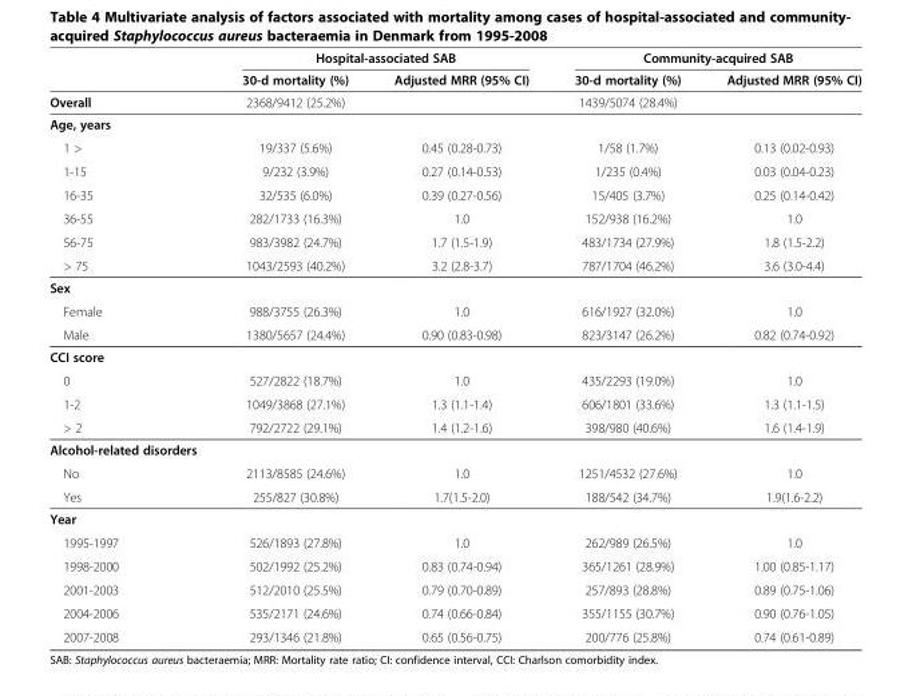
<table><thead><tr><td rowspan="2"></td><td colspan="2">Hospital-associated SAB</td><td colspan="2">Community-acquired SAB</td></tr><tr><td>30-d mortality (%)</td><td>Adjusted MRR (95% CI)</td><td>30-d mortality (%)</td><td>Adjusted MRR (95% CI)</td></tr></thead><tbody><tr><td>Overall</td><td>2368/9412 (25.2%)</td><td></td><td>1439/5074 (28.4%)</td><td></td></tr><tr><td colspan="5">Age, years</td></tr><tr><td>1 &gt;</td><td>19/337 (5.6%)</td><td>0.45 (0.28-0.73)</td><td>1/58 (1.7%)</td><td>0.13 (0.02-0.93)</td></tr><tr><td>1-15</td><td>9/232 (3.9%)</td><td>0.27 (0.14-0.53)</td><td>1/235 (0.4%)</td><td>0.03 (0.04-0.23)</td></tr><tr><td>16-35</td><td>32/535 (6.0%)</td><td>0.39 (0.27-0.56)</td><td>15/405 (3.7%)</td><td>0.25 (0.14-0.42)</td></tr><tr><td>36-55</td><td>282/1733 (16.3%)</td><td>1.0</td><td>152/938 (16.2%)</td><td>1.0</td></tr><tr><td>56-75</td><td>983/3982 (24.7%)</td><td>1.7 (1.5-1.9)</td><td>483/1734 (27.9%)</td><td>1.8 (1.5-2.2)</td></tr><tr><td>&gt; 75</td><td>1043/2593 (40.2%)</td><td>3.2 (2.8-3.7)</td><td>787/1704 (46.2%)</td><td>3.6 (3.0-4.4)</td></tr><tr><td colspan="5">Sex</td></tr><tr><td>Female</td><td>988/3755 (26.3%)</td><td>1.0</td><td>616/1927 (32.0%)</td><td>1.0</td></tr><tr><td>Male</td><td>1380/5657 (24.4%)</td><td>0.90 (0.83-0.98)</td><td>823/3147 (26.2%)</td><td>0.82 (0.74-0.92)</td></tr><tr><td colspan="5">CCI score</td></tr><tr><td>0</td><td>527/2822 (18.7%)</td><td>1.0</td><td>435/2293 (19.0%)</td><td>1.0</td></tr><tr><td>1-2</td><td>1049/3868 (27.1%)</td><td>1.3 (1.1-1.4)</td><td>606/1801 (33.6%)</td><td>1.3 (1.1-1.5)</td></tr><tr><td>&gt; 2</td><td>792/2722 (29.1%)</td><td>1.4 (1.2-1.6)</td><td>398/980 (40.6%)</td><td>1.6 (1.4-1.9)</td></tr><tr><td colspan="5">Alcohol-related disorders</td></tr><tr><td>No</td><td>2113/8585 (24.6%)</td><td>1.0</td><td>1251/4532 (27.6%)</td><td>1.0</td></tr><tr><td>Yes</td><td>255/827 (30.8%)</td><td>1.7(1.5-2.0)</td><td>188/542 (34.7%)</td><td>1.9(1.6-2.2)</td></tr><tr><td colspan="5">Year</td></tr><tr><td>1995-1997</td><td>526/1893 (27.8%)</td><td>1.0</td><td>262/989 (26.5%)</td><td>1.0</td></tr><tr><td>1998-2000</td><td>502/1992 (25.2%)</td><td>0.83 (0.74-0.94)</td><td>365/1261 (28.9%)</td><td>1.00 (0.85-1.17)</td></tr><tr><td>2001-2003</td><td>512/2010 (25.5%)</td><td>0.79 (0.70-0.89)</td><td>257/893 (28.8%)</td><td>0.89 (0.75-1.06)</td></tr><tr><td>2004-2006</td><td>535/2171 (24.6%)</td><td>0.74 (0.66-0.84)</td><td>355/1155 (30.7%)</td><td>0.90 (0.76-1.05)</td></tr><tr><td>2007-2008</td><td>293/1346 (21.8%)</td><td>0.65 (0.56-0.75)</td><td>200/776 (25.8%)</td><td>0.74 (0.61-0.89)</td></tr></tbody></table>